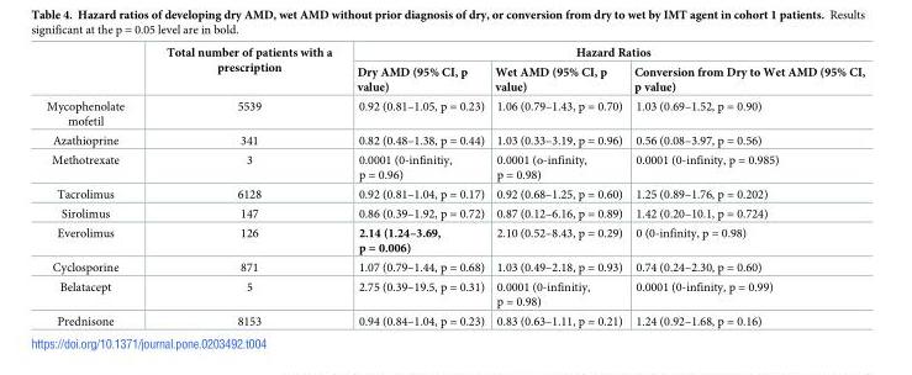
<table><thead><tr><td rowspan="2"></td><td rowspan="2">Total number of patients with a prescription</td><td colspan="3">Hazard Ratios</td></tr><tr><td>Dry AMD (95% CI, p value)</td><td>Wet AMD (95% CI, p value)</td><td>Conversion from Dry to Wet AMD (95% CI, p value)</td></tr></thead><tbody><tr><td>Mycophenolate mofetil</td><td>5539</td><td>0.92 (0.81–1.05, p = 0.23)</td><td>1.06 (0.79–1.43, p = 0.70)</td><td>1.03 (0.69–1.52, p = 0.90)</td></tr><tr><td>Azathioprine</td><td>341</td><td>0.82 (0.48–1.38, p = 0.44)</td><td>1.03 (0.33–3.19, p = 0.96)</td><td>0.56 (0.08–3.97, p = 0.56)</td></tr><tr><td>Methotrexate</td><td>3</td><td>0.0001 (0-infinitiy, p = 0.96)</td><td>0.0001 (o-infinity, p = 0.98)</td><td>0.0001 (0-infinity, p = 0.985)</td></tr><tr><td>Tacrolimus</td><td>6128</td><td>0.92 (0.81–1.04, p = 0.17)</td><td>0.92 (0.68–1.25, p = 0.60)</td><td>1.25 (0.89–1.76, p = 0.202)</td></tr><tr><td>Sirolimus</td><td>147</td><td>0.86 (0.39–1.92, p = 0.72)</td><td>0.87 (0.12–6.16, p = 0.89)</td><td>1.42 (0.20–10.1, p = 0.724)</td></tr><tr><td>Everolimus</td><td>126</td><td>2.14 (1.24–3.69, p = 0.006)</td><td>2.10 (0.52–8.43, p = 0.29)</td><td>0 (0-infinity, p = 0.98)</td></tr><tr><td>Cyclosporine</td><td>871</td><td>1.07 (0.79–1.44, p = 0.68)</td><td>1.03 (0.49–2.18, p = 0.93)</td><td>0.74 (0.24–2.30, p = 0.60)</td></tr><tr><td>Belatacept</td><td>5</td><td>2.75 (0.39–19.5, p = 0.31)</td><td>0.0001 (0-infinitiy, p = 0.98)</td><td>0.0001 (0-infinity, p = 0.99)</td></tr><tr><td>Prednisone</td><td>8153</td><td>0.94 (0.84–1.04, p = 0.23)</td><td>0.83 (0.63–1.11, p = 0.21)</td><td>1.24 (0.92–1.68, p = 0.16)</td></tr></tbody></table>